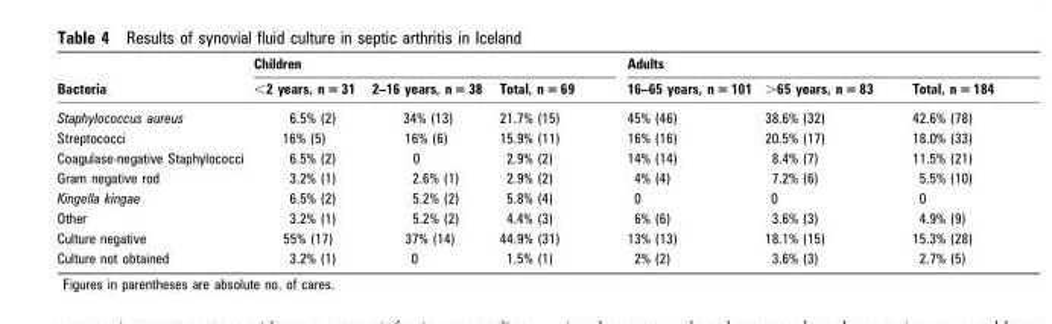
<table><thead><tr><td rowspan="2">Bacteria</td><td colspan="3">Children</td><td colspan="3">Adults</td></tr><tr><td>&lt;2 years, n = 31</td><td>2–16 years, n = 38</td><td>Total, n = 69</td><td>16–65 years, n = 101</td><td>&gt;65 years, n = 83</td><td>Total, n = 184</td></tr></thead><tbody><tr><td>Staphylococcus aureus</td><td>6.5% (2)</td><td>34% (13)</td><td>21.7% (15)</td><td>45% (46)</td><td>38.6% (32)</td><td>42.6% (78)</td></tr><tr><td>Streptococci</td><td>16% (5)</td><td>16% (6)</td><td>15.9% (11)</td><td>16% (16)</td><td>20.5% (17)</td><td>18.0% (33)</td></tr><tr><td>Coagulase-negative Staphylococci</td><td>6.5% (2)</td><td>0</td><td>2.9% (2)</td><td>14% (14)</td><td>8.4% (7)</td><td>11.5% (21)</td></tr><tr><td>Gram negative rod</td><td>3.2% (1)</td><td>2.6% (1)</td><td>2.9% (2)</td><td>4% (4)</td><td>7.2% (6)</td><td>5.5% (10)</td></tr><tr><td>Kingella kingae</td><td>6.5% (2)</td><td>5.2% (2)</td><td>5.8% (4)</td><td>0</td><td>0</td><td>0</td></tr><tr><td>Other</td><td>3.2% (1)</td><td>5.2% (2)</td><td>4.4% (3)</td><td>6% (6)</td><td>3.6% (3)</td><td>4.9% (9)</td></tr><tr><td>Culture negative</td><td>55% (17)</td><td>37% (14)</td><td>44.9% (31)</td><td>13% (13)</td><td>18.1% (15)</td><td>15.3% (28)</td></tr><tr><td>Culture not obtained</td><td>3.2% (1)</td><td>0</td><td>1.5% (1)</td><td>2% (2)</td><td>3.6% (3)</td><td>2.7% (5)</td></tr></tbody></table>